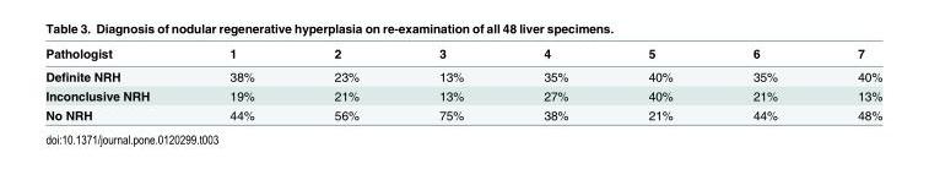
<table><thead><tr><td>Pathologist</td><td>1</td><td>2</td><td>3</td><td>4</td><td>5</td><td>6</td><td>7</td></tr></thead><tbody><tr><td>Definite NRH</td><td>38%</td><td>23%</td><td>13%</td><td>35%</td><td>40%</td><td>35%</td><td>40%</td></tr><tr><td>Inconclusive NRH</td><td>19%</td><td>21%</td><td>13%</td><td>27%</td><td>40%</td><td>21%</td><td>13%</td></tr><tr><td>No NRH</td><td>44%</td><td>56%</td><td>75%</td><td>38%</td><td>21%</td><td>44%</td><td>48%</td></tr></tbody></table>